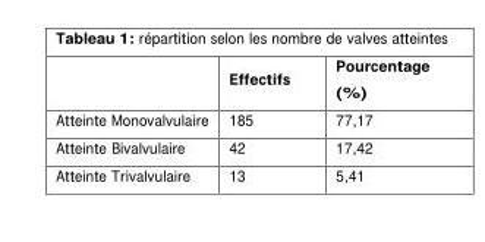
<table><thead><tr><td></td><td>Effectifs</td><td>Pourcentage (%)</td></tr></thead><tbody><tr><td>Atteinte Monovalvulaire</td><td>185</td><td>77,17</td></tr><tr><td>Atteinte Bivalvulaire</td><td>42</td><td>17,42</td></tr><tr><td>Atteinte Trivalvulaire</td><td>13</td><td>5,41</td></tr></tbody></table>